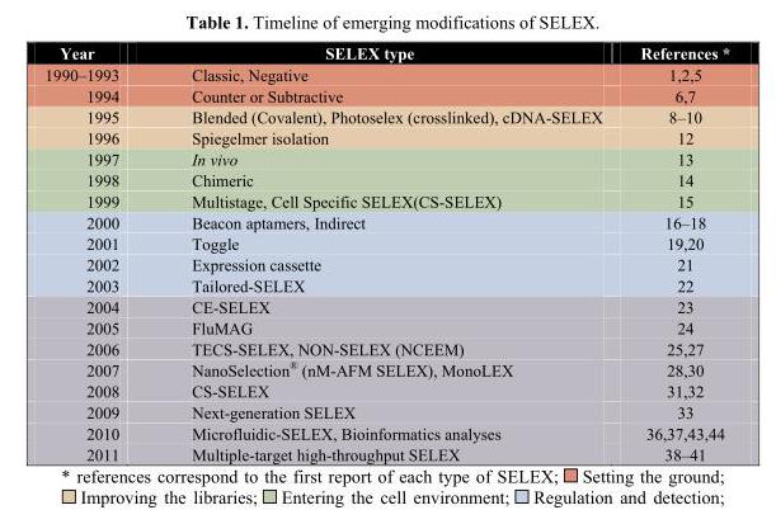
<table><thead><tr><td>Year</td><td>SELEX type</td><td>References *</td></tr></thead><tbody><tr><td>1990–1993</td><td>Classic, Negative</td><td>1,2,5</td></tr><tr><td>1994</td><td>Counter or Subtractive</td><td>6,7</td></tr><tr><td>1995</td><td>Blended (Covalent), Photoselex (crosslinked), cDNA-SELEX</td><td>8–10</td></tr><tr><td>1996</td><td>Spiegelmer isolation</td><td>12</td></tr><tr><td>1997</td><td>In vivo</td><td>13</td></tr><tr><td>1998</td><td>Chimeric</td><td>14</td></tr><tr><td>1999</td><td>Multistage, Cell Specific SELEX(CS-SELEX)</td><td>15</td></tr><tr><td>2000</td><td>Beacon aptamers, Indirect</td><td>16–18</td></tr><tr><td>2001</td><td>Toggle</td><td>19,20</td></tr><tr><td>2002</td><td>Expression cassette</td><td>21</td></tr><tr><td>2003</td><td>Tailored-SELEX</td><td>22</td></tr><tr><td>2004</td><td>CE-SELEX</td><td>23</td></tr><tr><td>2005</td><td>FluMAG</td><td>24</td></tr><tr><td>2006</td><td>TECS-SELEX, NON-SELEX (NCEEM)</td><td>25,27</td></tr><tr><td>2007</td><td>NanoSelection<sup>®</sup> (nM-AFM SELEX), MonoLEX</td><td>28,30</td></tr><tr><td>2008</td><td>CS-SELEX</td><td>31,32</td></tr><tr><td>2009</td><td>Next-generation SELEX</td><td>33</td></tr><tr><td>2010</td><td>Microfluidic-SELEX, Bioinformatics analyses</td><td>36,37,43,44</td></tr><tr><td>2011</td><td>Multiple-target high-throughput SELEX</td><td>38–41</td></tr></tbody></table>